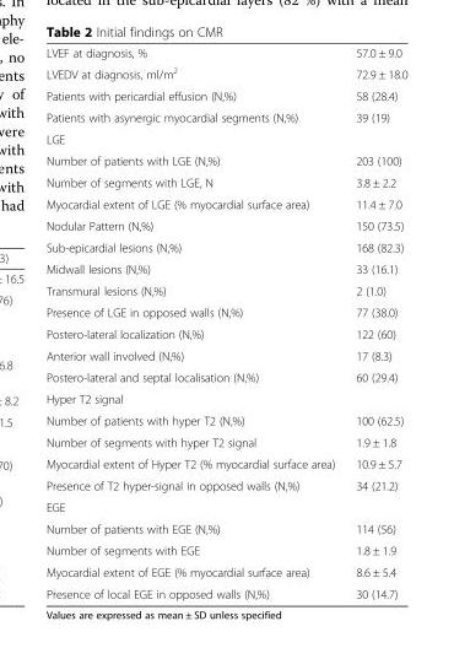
<table><tbody><tr><td>LVEF at diagnosis, %</td><td>57.0 ± 9.0</td></tr><tr><td>LVEDV at diagnosis, ml/m<sup>2</sup></td><td>72.9 ± 18.0</td></tr><tr><td>Patients with pericardial effusion (N,%)</td><td>58 (28.4)</td></tr><tr><td>Patients with asynergic myocardial segments (N,%)</td><td>39 (19)</td></tr><tr><td colspan="2">LGE</td></tr><tr><td>Number of patients with LGE (N,%)</td><td>203 (100)</td></tr><tr><td>Number of segments with LGE, N</td><td>3.8 ± 2.2</td></tr><tr><td>Myocardial extent of LGE (% myocardial surface area)</td><td>11.4 ± 7.0</td></tr><tr><td>Nodular Pattern (N,%)</td><td>150 (73.5)</td></tr><tr><td>Sub-epicardial lesions (N,%)</td><td>168 (82.3)</td></tr><tr><td>Midwall lesions (N,%)</td><td>33 (16.1)</td></tr><tr><td>Transmural lesions (N,%)</td><td>2 (1.0)</td></tr><tr><td>Presence of LGE in opposed walls (N,%)</td><td>77 (38.0)</td></tr><tr><td>Postero-lateral localization (N,%)</td><td>122 (60)</td></tr><tr><td>Anterior wall involved (N,%)</td><td>17 (8.3)</td></tr><tr><td>Postero-lateral and septal localisation (N,%)</td><td>60 (29.4)</td></tr><tr><td colspan="2">Hyper T2 signal</td></tr><tr><td>Number of patients with hyper T2 (N,%)</td><td>100 (62.5)</td></tr><tr><td>Number of segments with hyper T2 signal</td><td>1.9 ± 1.8</td></tr><tr><td>Myocardial extent of Hyper T2 (% myocardial surface area)</td><td>10.9 ± 5.7</td></tr><tr><td>Presence of T2 hyper-signal in opposed walls (N,%)</td><td>34 (21.2)</td></tr><tr><td colspan="2">EGE</td></tr><tr><td>Number of patients with EGE (N,%)</td><td>114 (56)</td></tr><tr><td>Number of segments with EGE</td><td>1.8 ± 1.9</td></tr><tr><td>Myocardial extent of EGE (% myocardial surface area)</td><td>8.6 ± 5.4</td></tr><tr><td>Presence of local EGE in opposed walls (N,%)</td><td>30 (14.7)</td></tr></tbody></table>